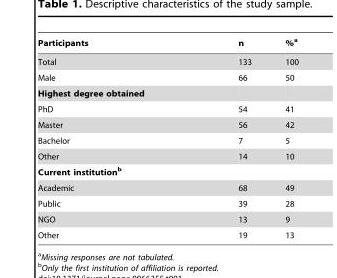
<table><thead><tr><td>Participants</td><td>n</td><td>%<sup>a</sup></td></tr></thead><tbody><tr><td>Total</td><td>133</td><td>100</td></tr><tr><td>Male</td><td>66</td><td>50</td></tr><tr><td colspan="3">Highest degree obtained</td></tr><tr><td>PhD</td><td>54</td><td>41</td></tr><tr><td>Master</td><td>56</td><td>42</td></tr><tr><td>Bachelor</td><td>7</td><td>5</td></tr><tr><td>Other</td><td>14</td><td>10</td></tr><tr><td colspan="3">Current institutionb</td></tr><tr><td>Academic</td><td>68</td><td>49</td></tr><tr><td>Public</td><td>39</td><td>28</td></tr><tr><td>NGO</td><td>13</td><td>9</td></tr><tr><td>Other</td><td>19</td><td>13</td></tr></tbody></table>